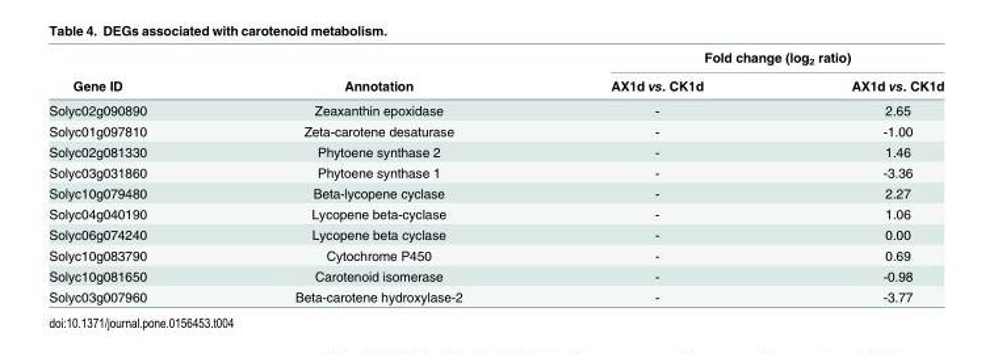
<table><thead><tr><td rowspan="2">Gene ID</td><td rowspan="2">Annotation</td><td colspan="2">Fold change (log<sub>2</sub> ratio)</td></tr><tr><td>AX1d vs. CK1d</td><td>AX1d vs. CK1d</td></tr></thead><tbody><tr><td>Solyc02g090890</td><td>Zeaxanthin epoxidase</td><td>-</td><td>2.65</td></tr><tr><td>Solyc01g097810</td><td>Zeta-carotene desaturase</td><td>-</td><td>-1.00</td></tr><tr><td>Solyc02g081330</td><td>Phytoene synthase 2</td><td>-</td><td>1.46</td></tr><tr><td>Solyc03g031860</td><td>Phytoene synthase 1</td><td>-</td><td>-3.36</td></tr><tr><td>Solyc10g079480</td><td>Beta-lycopene cyclase</td><td>-</td><td>2.27</td></tr><tr><td>Solyc04g040190</td><td>Lycopene beta-cyclase</td><td>-</td><td>1.06</td></tr><tr><td>Solyc06g074240</td><td>Lycopene beta cyclase</td><td>-</td><td>0.00</td></tr><tr><td>Solyc10g083790</td><td>Cytochrome P450</td><td>-</td><td>0.69</td></tr><tr><td>Solyc10g081650</td><td>Carotenoid isomerase</td><td>-</td><td>-0.98</td></tr><tr><td>Solyc03g007960</td><td>Beta-carotene hydroxylase-2</td><td>-</td><td>-3.77</td></tr></tbody></table>